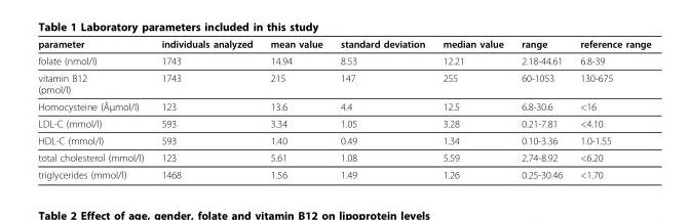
<table><thead><tr><td>parameter</td><td>individuals analyzed</td><td>mean value</td><td>standard deviation</td><td>median value</td><td>range</td><td>reference range</td></tr></thead><tbody><tr><td>folate (nmol/l)</td><td>1743</td><td>14.94</td><td>8.53</td><td>12.21</td><td>2.18-44.61</td><td>6.8-39</td></tr><tr><td>vitamin B12 (pmol/l)</td><td>1743</td><td>215</td><td>147</td><td>255</td><td>60-1053</td><td>130-675</td></tr><tr><td>Homocysteine (Âµmol/l)</td><td>123</td><td>13.6</td><td>4.4</td><td>12.5</td><td>6.8-30.6</td><td>&lt;16</td></tr><tr><td>LDL-C (mmol/l)</td><td>593</td><td>3.34</td><td>1.05</td><td>3.28</td><td>0.21-7.81</td><td>&lt;4.10</td></tr><tr><td>HDL-C (mmol/l)</td><td>593</td><td>1.40</td><td>0.49</td><td>1.34</td><td>0.10-3.36</td><td>1.0-1.55</td></tr><tr><td>total cholesterol (mmol/l)</td><td>123</td><td>5.61</td><td>1.08</td><td>5.59</td><td>2.74-8.92</td><td>&lt;6.20</td></tr><tr><td>triglycerides (mmol/l)</td><td>1468</td><td>1.56</td><td>1.49</td><td>1.26</td><td>0.25-30.46</td><td>&lt;1.70</td></tr></tbody></table>